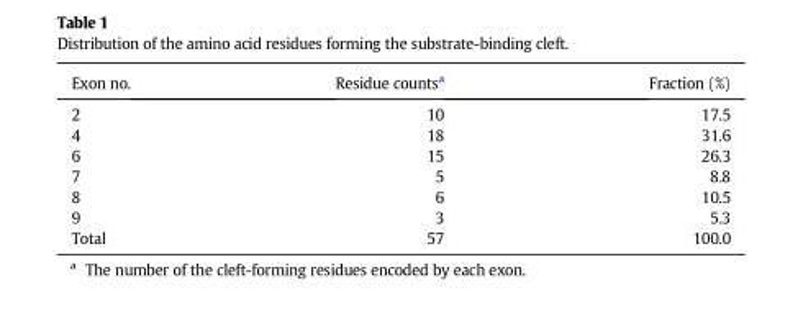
<table><thead><tr><td>Exon no.</td><td>Residue counts<sup>a</sup></td><td>Fraction (%)</td></tr></thead><tbody><tr><td>2</td><td>10</td><td>17.5</td></tr><tr><td>4</td><td>18</td><td>31.6</td></tr><tr><td>6</td><td>15</td><td>26.3</td></tr><tr><td>7</td><td>5</td><td>8.8</td></tr><tr><td>8</td><td>6</td><td>10.5</td></tr><tr><td>9</td><td>3</td><td>5.3</td></tr><tr><td>Total</td><td>57</td><td>100.0</td></tr></tbody></table>